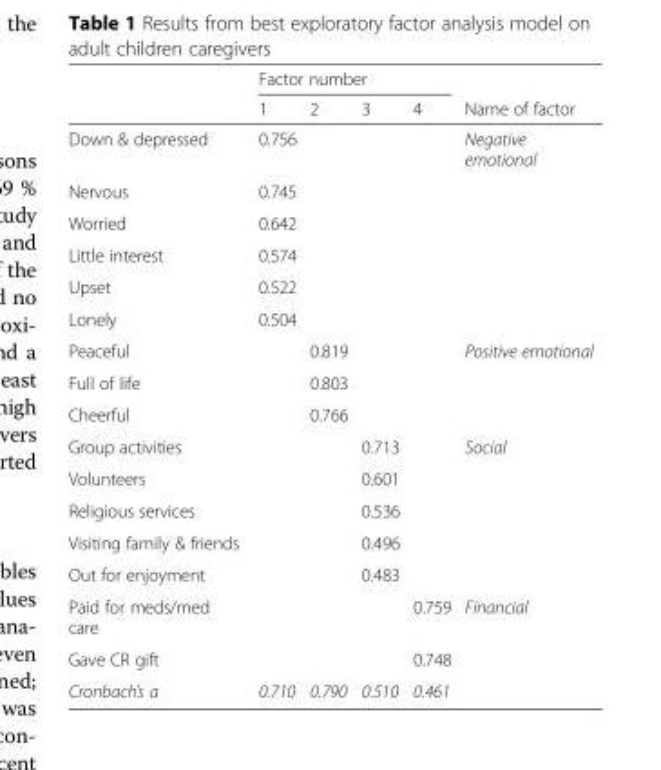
<table><thead><tr><td rowspan="2"></td><td colspan="4">Factor number</td><td rowspan="2">Name of factor</td></tr><tr><td>1</td><td>2</td><td>3</td><td>4</td></tr></thead><tbody><tr><td>Down &amp; depressed</td><td>0.756</td><td></td><td></td><td></td><td>Negative emotional</td></tr><tr><td>Nervous</td><td>0.745</td><td></td><td></td><td></td><td></td></tr><tr><td>Worried</td><td>0.642</td><td></td><td></td><td></td><td></td></tr><tr><td>Little interest</td><td>0.574</td><td></td><td></td><td></td><td></td></tr><tr><td>Upset</td><td>0.522</td><td></td><td></td><td></td><td></td></tr><tr><td>Lonely</td><td>0.504</td><td></td><td></td><td></td><td></td></tr><tr><td>Peaceful</td><td></td><td>0.819</td><td></td><td></td><td>Positive emotional</td></tr><tr><td>Full of life</td><td></td><td>0.803</td><td></td><td></td><td></td></tr><tr><td>Cheerful</td><td></td><td>0.766</td><td></td><td></td><td></td></tr><tr><td>Group activities</td><td></td><td></td><td>0.713</td><td></td><td>Social</td></tr><tr><td>Volunteers</td><td></td><td></td><td>0.601</td><td></td><td></td></tr><tr><td>Religious services</td><td></td><td></td><td>0.536</td><td></td><td></td></tr><tr><td>Visiting family &amp; friends</td><td></td><td></td><td>0.496</td><td></td><td></td></tr><tr><td>Out for enjoyment</td><td></td><td></td><td>0.483</td><td></td><td></td></tr><tr><td>Paid for meds/med care</td><td></td><td></td><td></td><td>0.759</td><td>Financial</td></tr><tr><td>Gave CR gift</td><td></td><td></td><td></td><td>0.748</td><td></td></tr><tr><td>Cronbach’s a</td><td>0.710</td><td>0.790</td><td>0.510</td><td>0.461</td><td></td></tr></tbody></table>